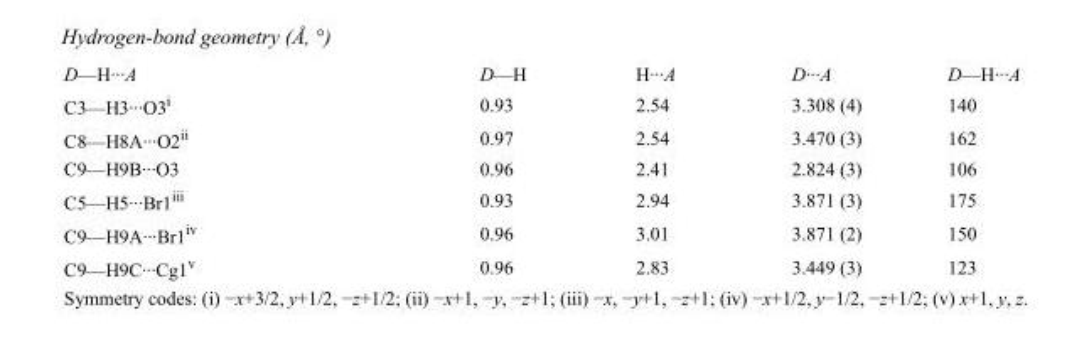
<table><tbody><tr><td>D—H···A</td><td>D—H</td><td>H···A</td><td>D···A</td><td>D—H···A</td></tr><tr><td>C3—H3···O3<sup>i</sup></td><td>0.93</td><td>2.54</td><td>3.308 (4)</td><td>140</td></tr><tr><td>C8—H8A···O2<sup>ii</sup></td><td>0.97</td><td>2.54</td><td>3.470 (3)</td><td>162</td></tr><tr><td>C9—H9B···O3</td><td>0.96</td><td>2.41</td><td>2.824 (3)</td><td>106</td></tr><tr><td>C5—H5···Br1<sup>iii</sup></td><td>0.93</td><td>2.94</td><td>3.871 (3)</td><td>175</td></tr><tr><td>C9—H9A···Br1<sup>iv</sup></td><td>0.96</td><td>3.01</td><td>3.871 (2)</td><td>150</td></tr><tr><td>C9—H9C···Cg1<sup>v</sup></td><td>0.96</td><td>2.83</td><td>3.449 (3)</td><td>123</td></tr></tbody></table>